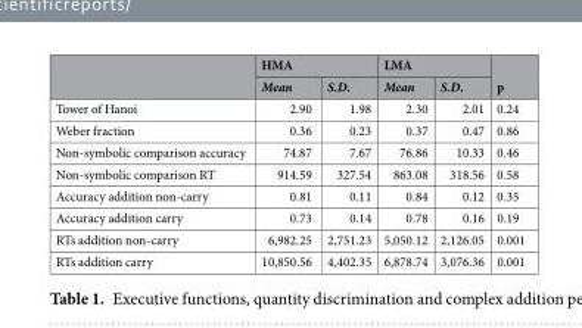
<table><thead><tr><td rowspan="2"></td><td colspan="2">HMA</td><td colspan="2">LMA</td><td rowspan="2">p</td></tr><tr><td>Mean</td><td>S.D.</td><td>Mean</td><td>S.D.</td></tr></thead><tbody><tr><td>Tower of Hanoi</td><td>2.90</td><td>1.98</td><td>2.30</td><td>2.01</td><td>0.24</td></tr><tr><td>Weber fraction</td><td>0.36</td><td>0.23</td><td>0.37</td><td>0.47</td><td>0.86</td></tr><tr><td>Non-symbolic comparison accuracy</td><td>74.87</td><td>7.67</td><td>76.86</td><td>10.33</td><td>0.46</td></tr><tr><td>Non-symbolic comparison RT</td><td>914.59</td><td>327.54</td><td>863.08</td><td>318.56</td><td>0.58</td></tr><tr><td>Accuracy addition non-carry</td><td>0.81</td><td>0.11</td><td>0.84</td><td>0.12</td><td>0.35</td></tr><tr><td>Accuracy addition carry</td><td>0.73</td><td>0.14</td><td>0.78</td><td>0.16</td><td>0.19</td></tr><tr><td>RTs addition non-carry</td><td>6,982.25</td><td>2,751.23</td><td>5,050.12</td><td>2,126.05</td><td>0.001</td></tr><tr><td>RTs addition carry</td><td>10,850.56</td><td>4,402.35</td><td>6,878.74</td><td>3,076.36</td><td>0.001</td></tr></tbody></table>